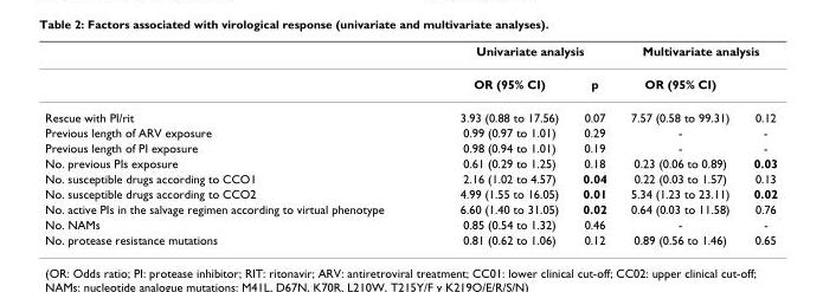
<table><thead><tr><td rowspan="2"></td><td colspan="2">Univariate analysis</td><td colspan="2">Multivariate analysis</td></tr><tr><td>OR (95% CI)</td><td>p</td><td>OR (95% CI)</td><td></td></tr></thead><tbody><tr><td>Rescue with PI/rit</td><td>3.93 (0.88 to 17.56)</td><td>0.07</td><td>7.57 (0.58 to 99.31)</td><td>0.12</td></tr><tr><td>Previous length of ARV exposure</td><td>0.99 (0.97 to 1.01)</td><td>0.29</td><td>-</td><td>-</td></tr><tr><td>Previous length of PI exposure</td><td>0.98 (0.94 to 1.01)</td><td>0.19</td><td>-</td><td>-</td></tr><tr><td>No. previous PIs exposure</td><td>0.61 (0.29 to 1.25)</td><td>0.18</td><td>0.23 (0.06 to 0.89)</td><td>0.03</td></tr><tr><td>No. susceptible drugs according to CCO1</td><td>2.16 (1.02 to 4.57)</td><td>0.04</td><td>0.22 (0.03 to 1.57)</td><td>0.13</td></tr><tr><td>No. susceptible drugs according to CCO2</td><td>4.99 (1.55 to 16.05)</td><td>0.01</td><td>5.34 (1.23 to 23.11)</td><td>0.02</td></tr><tr><td>No. active PIs in the salvage regimen according to virtual phenotype</td><td>6.60 (1.40 to 31.05)</td><td>0.02</td><td>0.64 (0.03 to 11.58)</td><td>0.76</td></tr><tr><td>No. NAMs</td><td>0.85 (0.54 to 1.32)</td><td>0.46</td><td>-</td><td>-</td></tr><tr><td>No. protease resistance mutations</td><td>0.81 (0.62 to 1.06)</td><td>0.12</td><td>0.89 (0.56 to 1.46)</td><td>0.65</td></tr></tbody></table>